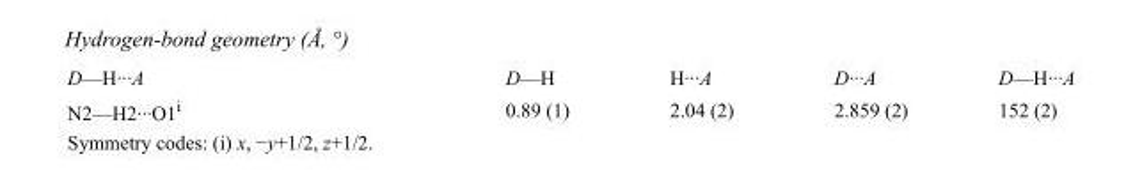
<table><tbody><tr><td>D—H···A</td><td>D—H</td><td>H···A</td><td>D···A</td><td>D—H···A</td></tr><tr><td>N2—H2···O1<sup>i</sup></td><td>0.89 (1)</td><td>2.04 (2)</td><td>2.859 (2)</td><td>152 (2)</td></tr></tbody></table>